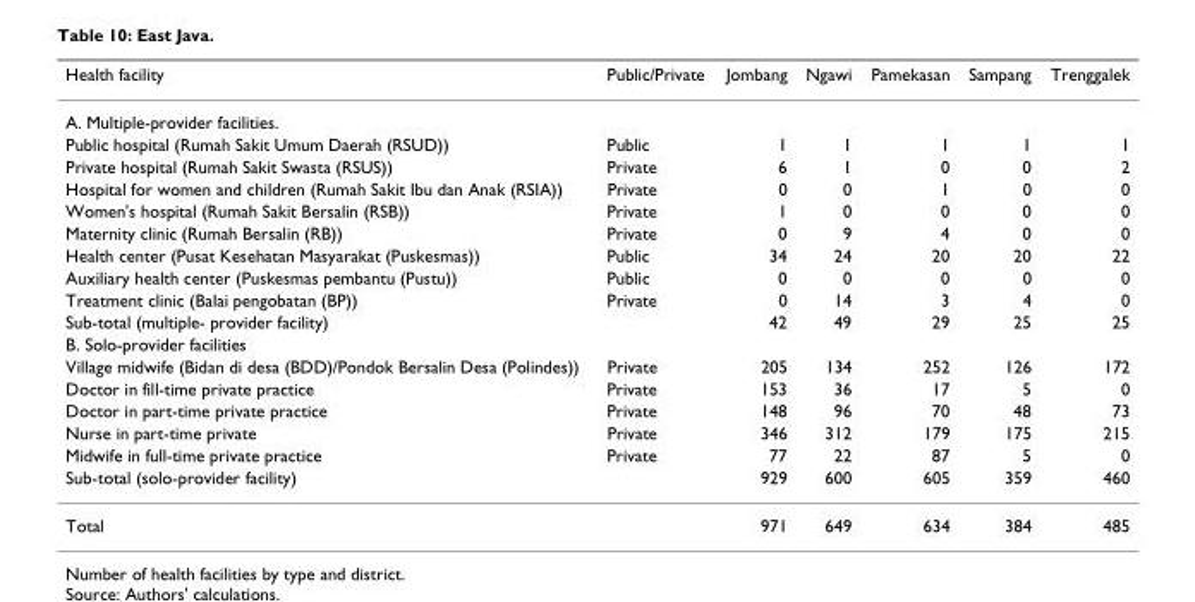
<table><thead><tr><td>Health facility</td><td>Public/Private</td><td>Jombang</td><td>Ngawi</td><td>Pamekasan</td><td>Sampang</td><td>Trenggalek</td></tr></thead><tbody><tr><td colspan="7">A. Multiple-provider facilities.</td></tr><tr><td>Public hospital (Rumah Sakit Umum Daerah (RSUD))</td><td>Public</td><td>1</td><td>1</td><td>1</td><td>1</td><td>1</td></tr><tr><td>Private hospital (Rumah Sakit Swasta (RSUS))</td><td>Private</td><td>6</td><td>1</td><td>0</td><td>0</td><td>2</td></tr><tr><td>Hospital for women and children (Rumah Sakit Ibu dan Anak (RSIA))</td><td>Private</td><td>0</td><td>0</td><td>1</td><td>0</td><td>0</td></tr><tr><td>Women&#x27;s hospital (Rumah Sakit Bersalin (RSB))</td><td>Private</td><td>1</td><td>0</td><td>0</td><td>0</td><td>0</td></tr><tr><td>Maternity clinic (Rumah Bersalin (RB))</td><td>Private</td><td>0</td><td>9</td><td>4</td><td>0</td><td>0</td></tr><tr><td>Health center (Pusat Kesehatan Masyarakat (Puskesmas))</td><td>Public</td><td>34</td><td>24</td><td>20</td><td>20</td><td>22</td></tr><tr><td>Auxiliary health center (Puskesmas pembantu (Pustu))</td><td>Public</td><td>0</td><td>0</td><td>0</td><td>0</td><td>0</td></tr><tr><td>Treatment clinic (Balai pengobatan (BP))</td><td>Private</td><td>0</td><td>14</td><td>3</td><td>4</td><td>0</td></tr><tr><td>Sub-total (multiple- provider facility)</td><td></td><td>42</td><td>49</td><td>29</td><td>25</td><td>25</td></tr><tr><td colspan="7">B. Solo-provider facilities</td></tr><tr><td>Village midwife (Bidan di desa (BDD)/Pondok Bersalin Desa (Polindes))</td><td>Private</td><td>205</td><td>134</td><td>252</td><td>126</td><td>172</td></tr><tr><td>Doctor in fill-time private practice</td><td>Private</td><td>153</td><td>36</td><td>17</td><td>5</td><td>0</td></tr><tr><td>Doctor in part-time private practice</td><td>Private</td><td>148</td><td>96</td><td>70</td><td>48</td><td>73</td></tr><tr><td>Nurse in part-time private</td><td>Private</td><td>346</td><td>312</td><td>179</td><td>175</td><td>215</td></tr><tr><td>Midwife in full-time private practice</td><td>Private</td><td>77</td><td>22</td><td>87</td><td>5</td><td>0</td></tr><tr><td>Sub-total (solo-provider facility)</td><td></td><td>929</td><td>600</td><td>605</td><td>359</td><td>460</td></tr><tr><td>Total</td><td></td><td>971</td><td>649</td><td>634</td><td>384</td><td>485</td></tr></tbody></table>